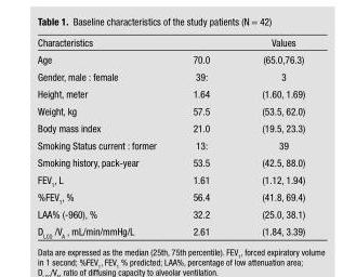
<table><thead><tr><td>Characteristics</td><td></td><td>Values</td></tr></thead><tbody><tr><td>Age</td><td>70.0</td><td>(65.0,76.3)</td></tr><tr><td>Gender, male : female</td><td>39:</td><td>3</td></tr><tr><td>Height, meter</td><td>1.64</td><td>(1.60, 1.69)</td></tr><tr><td>Weight, kg</td><td>57.5</td><td>(53.5, 62.0)</td></tr><tr><td>Body mass index</td><td>21.0</td><td>(19.5, 23.3)</td></tr><tr><td>Smoking Status current : former</td><td>13:</td><td>39</td></tr><tr><td>Smoking history, pack-year</td><td>53.5</td><td>(42.5, 88.0)</td></tr><tr><td>FEV<sub>1</sub>, L</td><td>1.61</td><td>(1.12, 1.94)</td></tr><tr><td>%FEV<sub>1</sub>, %</td><td>56.4</td><td>(41.8, 69.4)</td></tr><tr><td>LAA% (-960), %</td><td>32.2</td><td>(25.0, 38.1)</td></tr><tr><td>D<sub>LCO</sub> /V<sub>A</sub> , mL/min/mmHg/L</td><td>2.61</td><td>(1.84, 3.39)</td></tr></tbody></table>